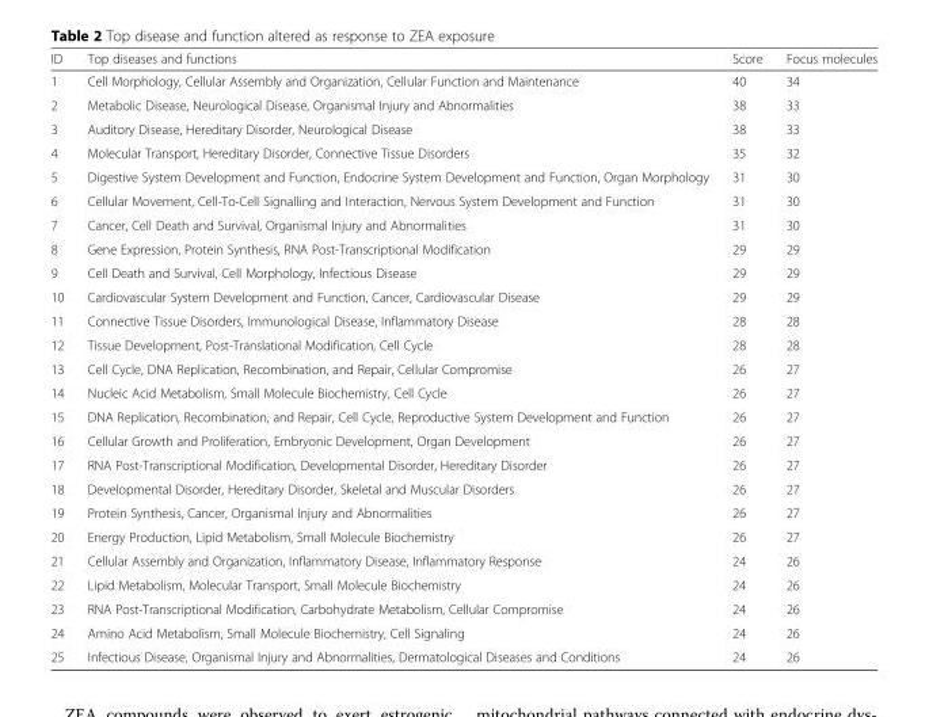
<table><thead><tr><td>ID</td><td>Top diseases and functions</td><td>Score</td><td>Focus molecules</td></tr></thead><tbody><tr><td>1</td><td>Cell Morphology, Cellular Assembly and Organization, Cellular Function and Maintenance</td><td>40</td><td>34</td></tr><tr><td>2</td><td>Metabolic Disease, Neurological Disease, Organismal Injury and Abnormalities</td><td>38</td><td>33</td></tr><tr><td>3</td><td>Auditory Disease, Hereditary Disorder, Neurological Disease</td><td>38</td><td>33</td></tr><tr><td>4</td><td>Molecular Transport, Hereditary Disorder, Connective Tissue Disorders</td><td>35</td><td>32</td></tr><tr><td>5</td><td>Digestive System Development and Function, Endocrine System Development and Function, Organ Morphology</td><td>31</td><td>30</td></tr><tr><td>6</td><td>Cellular Movement, Cell-To-Cell Signalling and Interaction, Nervous System Development and Function</td><td>31</td><td>30</td></tr><tr><td>7</td><td>Cancer, Cell Death and Survival, Organismal Injury and Abnormalities</td><td>31</td><td>30</td></tr><tr><td>8</td><td>Gene Expression, Protein Synthesis, RNA Post-Transcriptional Modification</td><td>29</td><td>29</td></tr><tr><td>9</td><td>Cell Death and Survival, Cell Morphology, Infectious Disease</td><td>29</td><td>29</td></tr><tr><td>10</td><td>Cardiovascular System Development and Function, Cancer, Cardiovascular Disease</td><td>29</td><td>29</td></tr><tr><td>11</td><td>Connective Tissue Disorders, Immunological Disease, Inflammatory Disease</td><td>28</td><td>28</td></tr><tr><td>12</td><td>Tissue Development, Post-Translational Modification, Cell Cycle</td><td>28</td><td>28</td></tr><tr><td>13</td><td>Cell Cycle, DNA Replication, Recombination, and Repair, Cellular Compromise</td><td>26</td><td>27</td></tr><tr><td>14</td><td>Nucleic Acid Metabolism, Small Molecule Biochemistry, Cell Cycle</td><td>26</td><td>27</td></tr><tr><td>15</td><td>DNA Replication, Recombination, and Repair, Cell Cycle, Reproductive System Development and Function</td><td>26</td><td>27</td></tr><tr><td>16</td><td>Cellular Growth and Proliferation, Embryonic Development, Organ Development</td><td>26</td><td>27</td></tr><tr><td>17</td><td>RNA Post-Transcriptional Modification, Developmental Disorder, Hereditary Disorder</td><td>26</td><td>27</td></tr><tr><td>18</td><td>Developmental Disorder, Hereditary Disorder, Skeletal and Muscular Disorders</td><td>26</td><td>27</td></tr><tr><td>19</td><td>Protein Synthesis, Cancer, Organismal Injury and Abnormalities</td><td>26</td><td>27</td></tr><tr><td>20</td><td>Energy Production, Lipid Metabolism, Small Molecule Biochemistry</td><td>26</td><td>27</td></tr><tr><td>21</td><td>Cellular Assembly and Organization, Inflammatory Disease, Inflammatory Response</td><td>24</td><td>26</td></tr><tr><td>22</td><td>Lipid Metabolism, Molecular Transport, Small Molecule Biochemistry</td><td>24</td><td>26</td></tr><tr><td>23</td><td>RNA Post-Transcriptional Modification, Carbohydrate Metabolism, Cellular Compromise</td><td>24</td><td>26</td></tr><tr><td>24</td><td>Amino Acid Metabolism, Small Molecule Biochemistry, Cell Signaling</td><td>24</td><td>26</td></tr><tr><td>25</td><td>Infectious Disease, Organismal Injury and Abnormalities, Dermatological Diseases and Conditions</td><td>24</td><td>26</td></tr></tbody></table>